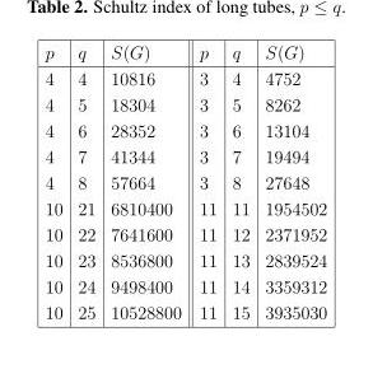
<table><thead><tr><td>p</td><td>q</td><td>S(G)</td><td>p</td><td>q</td><td>S(G)</td></tr></thead><tbody><tr><td>4</td><td>4</td><td>10816</td><td>3</td><td>4</td><td>4752</td></tr><tr><td>4</td><td>5</td><td>18304</td><td>3</td><td>5</td><td>8262</td></tr><tr><td>4</td><td>6</td><td>28352</td><td>3</td><td>6</td><td>13104</td></tr><tr><td>4</td><td>7</td><td>41344</td><td>3</td><td>7</td><td>19494</td></tr><tr><td>4</td><td>8</td><td>57664</td><td>3</td><td>8</td><td>27648</td></tr><tr><td>10</td><td>21</td><td>6810400</td><td>11</td><td>11</td><td>1954502</td></tr><tr><td>10</td><td>22</td><td>7641600</td><td>11</td><td>12</td><td>2371952</td></tr><tr><td>10</td><td>23</td><td>8536800</td><td>11</td><td>13</td><td>2839524</td></tr><tr><td>10</td><td>24</td><td>9498400</td><td>11</td><td>14</td><td>3359312</td></tr><tr><td>10</td><td>25</td><td>10528800</td><td>11</td><td>15</td><td>3935030</td></tr></tbody></table>